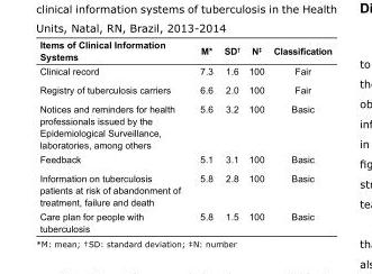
<table><tbody><tr><td>Items of Clinical Information Systems</td><td>M*</td><td>SD<sup>†</sup></td><td>N<sup>‡</sup></td><td>Classification</td></tr><tr><td>Clinical record</td><td>7.3</td><td>1.6</td><td>100</td><td>Fair</td></tr><tr><td>Registry of tuberculosis carriers</td><td>6.6</td><td>2.0</td><td>100</td><td>Fair</td></tr><tr><td>Notices and reminders for health professionals issued by the Epidemiological Surveillance, laboratories, among others</td><td>5.6</td><td>3.2</td><td>100</td><td>Basic</td></tr><tr><td>Feedback</td><td>5.1</td><td>3.1</td><td>100</td><td>Basic</td></tr><tr><td>Information on tuberculosis patients at risk of abandonment of treatment, failure and death</td><td>5.8</td><td>2.8</td><td>100</td><td>Basic</td></tr><tr><td>Care plan for people with tuberculosis</td><td>5.8</td><td>1.5</td><td>100</td><td>Basic</td></tr></tbody></table>